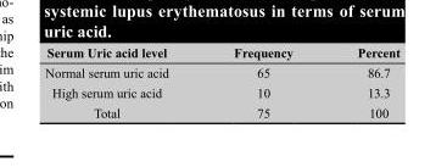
<table><thead><tr><td>Serum Uric acid level</td><td>Frequency</td><td>Percent</td></tr></thead><tbody><tr><td>Normal serum uric acid</td><td>65</td><td>86.7</td></tr><tr><td>High serum uric acid</td><td>10</td><td>13.3</td></tr><tr><td>Total</td><td>75</td><td>100</td></tr></tbody></table>